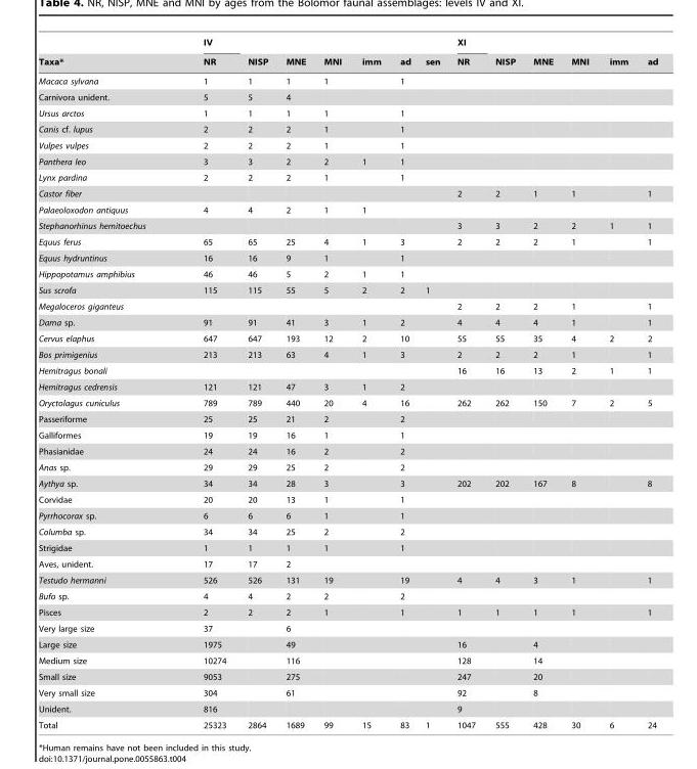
<table><thead><tr><td rowspan="2">Taxa*</td><td rowspan="2">IV NR</td><td rowspan="2">NISP</td><td rowspan="2">MNE</td><td rowspan="2">MNI</td><td rowspan="2">imm</td><td rowspan="2">ad</td><td rowspan="2">sen</td><td rowspan="2">XI NR</td><td rowspan="2">NISP</td><td rowspan="2">MNE</td><td rowspan="2">MNI</td><td rowspan="2">imm</td><td rowspan="2">ad</td></tr><tr></tr></thead><tbody><tr><td>Macaca sylvana</td><td>1</td><td>1</td><td>1</td><td>1</td><td></td><td>1</td><td></td><td></td><td></td><td></td><td></td><td></td><td></td></tr><tr><td>Carnivora unident.</td><td>5</td><td>5</td><td>4</td><td></td><td></td><td></td><td></td><td></td><td></td><td></td><td></td><td></td><td></td></tr><tr><td>Ursus arctos</td><td>1</td><td>1</td><td>1</td><td>1</td><td></td><td>1</td><td></td><td></td><td></td><td></td><td></td><td></td><td></td></tr><tr><td>Canis cf. lupus</td><td>2</td><td>2</td><td>2</td><td>1</td><td></td><td>1</td><td></td><td></td><td></td><td></td><td></td><td></td><td></td></tr><tr><td>Vulpes vulpes</td><td>2</td><td>2</td><td>2</td><td>1</td><td></td><td>1</td><td></td><td></td><td></td><td></td><td></td><td></td><td></td></tr><tr><td>Panthera leo</td><td>3</td><td>3</td><td>2</td><td>2</td><td>1</td><td>1</td><td></td><td></td><td></td><td></td><td></td><td></td><td></td></tr><tr><td>Lynx pardina</td><td>2</td><td>2</td><td>2</td><td>1</td><td></td><td>1</td><td></td><td></td><td></td><td></td><td></td><td></td><td></td></tr><tr><td>Castor fiber</td><td></td><td></td><td></td><td></td><td></td><td></td><td></td><td>2</td><td>2</td><td>1</td><td>1</td><td></td><td>1</td></tr><tr><td>Palaeoloxodon antiquus</td><td>4</td><td>4</td><td>2</td><td>1</td><td>1</td><td></td><td></td><td></td><td></td><td></td><td></td><td></td><td></td></tr><tr><td>Stephanorhinus hemitoechus</td><td></td><td></td><td></td><td></td><td></td><td></td><td></td><td>3</td><td>3</td><td>2</td><td>2</td><td>1</td><td>1</td></tr><tr><td>Equus ferus</td><td>65</td><td>65</td><td>25</td><td>4</td><td>1</td><td>3</td><td></td><td>2</td><td>2</td><td>2</td><td>1</td><td></td><td>1</td></tr><tr><td>Equus hydruntinus</td><td>16</td><td>16</td><td>9</td><td>1</td><td></td><td>1</td><td></td><td></td><td></td><td></td><td></td><td></td><td></td></tr><tr><td>Hippopotamus amphibius</td><td>46</td><td>46</td><td>5</td><td>2</td><td>1</td><td>1</td><td></td><td></td><td></td><td></td><td></td><td></td><td></td></tr><tr><td>Sus scrofa</td><td>115</td><td>115</td><td>55</td><td>5</td><td>2</td><td>2</td><td>1</td><td></td><td></td><td></td><td></td><td></td><td></td></tr><tr><td>Megaloceros giganteus</td><td></td><td></td><td></td><td></td><td></td><td></td><td></td><td>2</td><td>2</td><td>2</td><td>1</td><td></td><td>1</td></tr><tr><td>Dama sp.</td><td>91</td><td>91</td><td>41</td><td>3</td><td>1</td><td>2</td><td></td><td>4</td><td>4</td><td>4</td><td>1</td><td></td><td>1</td></tr><tr><td>Cervus elaphus</td><td>647</td><td>647</td><td>193</td><td>12</td><td>2</td><td>10</td><td></td><td>55</td><td>55</td><td>35</td><td>4</td><td>2</td><td>2</td></tr><tr><td>Bos primigenius</td><td>213</td><td>213</td><td>63</td><td>4</td><td>1</td><td>3</td><td></td><td>2</td><td>2</td><td>2</td><td>1</td><td></td><td>1</td></tr><tr><td>Hemitragus bonali</td><td></td><td></td><td></td><td></td><td></td><td></td><td></td><td>16</td><td>16</td><td>13</td><td>2</td><td>1</td><td>1</td></tr><tr><td>Hemitragus cedrensis</td><td>121</td><td>121</td><td>47</td><td>3</td><td>1</td><td>2</td><td></td><td></td><td></td><td></td><td></td><td></td><td></td></tr><tr><td>Oryctolagus cuniculus</td><td>789</td><td>789</td><td>440</td><td>20</td><td>4</td><td>16</td><td></td><td>262</td><td>262</td><td>150</td><td>7</td><td>2</td><td>5</td></tr><tr><td>Passeriforme</td><td>25</td><td>25</td><td>21</td><td>2</td><td></td><td>2</td><td></td><td></td><td></td><td></td><td></td><td></td><td></td></tr><tr><td>Galliformes</td><td>19</td><td>19</td><td>16</td><td>1</td><td></td><td>1</td><td></td><td></td><td></td><td></td><td></td><td></td><td></td></tr><tr><td>Phasianidae</td><td>24</td><td>24</td><td>16</td><td>2</td><td></td><td>2</td><td></td><td></td><td></td><td></td><td></td><td></td><td></td></tr><tr><td>Anas sp.</td><td>29</td><td>29</td><td>25</td><td>2</td><td></td><td>2</td><td></td><td></td><td></td><td></td><td></td><td></td><td></td></tr><tr><td>Aythya sp.</td><td>34</td><td>34</td><td>28</td><td>3</td><td></td><td>3</td><td></td><td>202</td><td>202</td><td>167</td><td>8</td><td></td><td>8</td></tr><tr><td>Corvidae</td><td>20</td><td>20</td><td>13</td><td>1</td><td></td><td>1</td><td></td><td></td><td></td><td></td><td></td><td></td><td></td></tr><tr><td>Pyrrhocorax sp.</td><td>6</td><td>6</td><td>6</td><td>1</td><td></td><td>1</td><td></td><td></td><td></td><td></td><td></td><td></td><td></td></tr><tr><td>Columba sp.</td><td>34</td><td>34</td><td>25</td><td>2</td><td></td><td>2</td><td></td><td></td><td></td><td></td><td></td><td></td><td></td></tr><tr><td>Strigidae</td><td>1</td><td>1</td><td>1</td><td>1</td><td></td><td>1</td><td></td><td></td><td></td><td></td><td></td><td></td><td></td></tr><tr><td>Aves, unident.</td><td>17</td><td>17</td><td>2</td><td></td><td></td><td></td><td></td><td></td><td></td><td></td><td></td><td></td><td></td></tr><tr><td>Testudo hermanni</td><td>526</td><td>526</td><td>131</td><td>19</td><td></td><td>19</td><td></td><td>4</td><td>4</td><td>3</td><td>1</td><td></td><td>1</td></tr><tr><td>Bufo sp.</td><td>4</td><td>4</td><td>2</td><td>2</td><td></td><td>2</td><td></td><td></td><td></td><td></td><td></td><td></td><td></td></tr><tr><td>Pisces</td><td>2</td><td>2</td><td>2</td><td>1</td><td></td><td>1</td><td></td><td>1</td><td>1</td><td>1</td><td>1</td><td></td><td>1</td></tr><tr><td>Very large size</td><td>37</td><td></td><td>6</td><td></td><td></td><td></td><td></td><td></td><td></td><td></td><td></td><td></td><td></td></tr><tr><td>Large size</td><td>1975</td><td></td><td>49</td><td></td><td></td><td></td><td></td><td>16</td><td></td><td>4</td><td></td><td></td><td></td></tr><tr><td>Medium size</td><td>10274</td><td></td><td>116</td><td></td><td></td><td></td><td></td><td>128</td><td></td><td>14</td><td></td><td></td><td></td></tr><tr><td>Small size</td><td>9053</td><td></td><td>275</td><td></td><td></td><td></td><td></td><td>247</td><td></td><td>20</td><td></td><td></td><td></td></tr><tr><td>Very small size</td><td>304</td><td></td><td>61</td><td></td><td></td><td></td><td></td><td>92</td><td></td><td>8</td><td></td><td></td><td></td></tr><tr><td>Unident.</td><td>816</td><td></td><td></td><td></td><td></td><td></td><td></td><td>9</td><td></td><td></td><td></td><td></td><td></td></tr><tr><td>Total</td><td>25323</td><td>2864</td><td>1689</td><td>99</td><td>15</td><td>83</td><td>1</td><td>1047</td><td>555</td><td>428</td><td>30</td><td>6</td><td>24</td></tr></tbody></table>